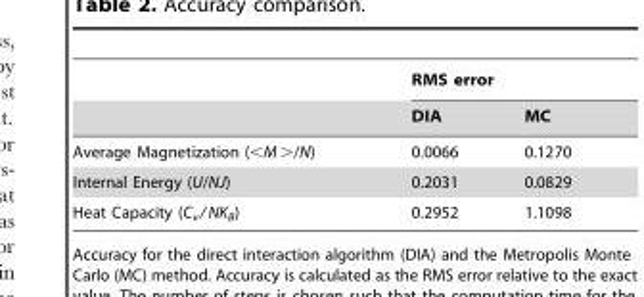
<table><thead><tr><td rowspan="2"></td><td colspan="2">RMS error</td></tr><tr><td>DIA</td><td>MC</td></tr></thead><tbody><tr><td>Average Magnetization (&lt;M &gt;/N)</td><td>0.0066</td><td>0.1270</td></tr><tr><td>Internal Energy (U/NJ)</td><td>0.2031</td><td>0.0829</td></tr><tr><td>Heat Capacity (C<sub>v</sub>/ NK<sub>B</sub>)</td><td>0.2952</td><td>1.1098</td></tr></tbody></table>